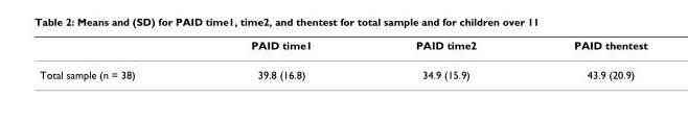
<table><thead><tr><td></td><td>PAID time1</td><td>PAID time2</td><td>PAID thentest</td></tr></thead><tbody><tr><td>Total sample (n = 38)</td><td>39.8 (16.8)</td><td>34.9 (15.9)</td><td>43.9 (20.9)</td></tr></tbody></table>